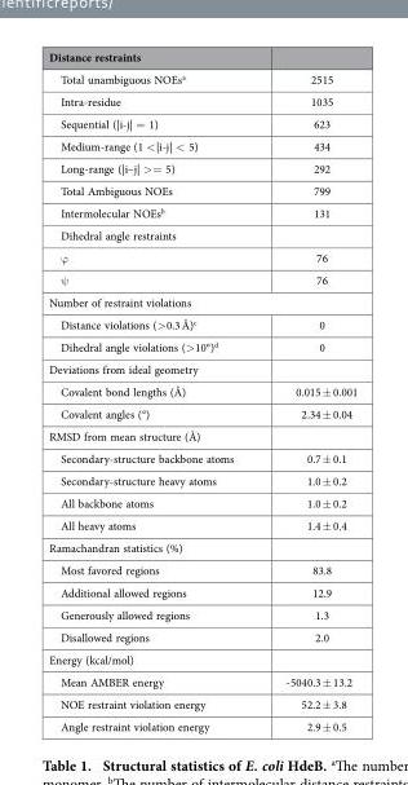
<table><thead><tr><td>Distance restraints</td><td></td></tr></thead><tbody><tr><td>Total unambiguous NOEs<sup>a</sup></td><td>2515</td></tr><tr><td>Intra-residue</td><td>1035</td></tr><tr><td>Sequential (|i-j| = 1)</td><td>623</td></tr><tr><td>Medium-range (1 &lt; |i-j| &lt; 5)</td><td>434</td></tr><tr><td>Long-range (|i–j| &gt; = 5)</td><td>292</td></tr><tr><td>Total Ambiguous NOEs</td><td>799</td></tr><tr><td>Intermolecular NOEs<sup>b</sup></td><td>131</td></tr><tr><td colspan="2">Dihedral angle restraints</td></tr><tr><td>ϕ</td><td>76</td></tr><tr><td>ψ</td><td>76</td></tr><tr><td colspan="2">Number of restraint violations</td></tr><tr><td>Distance violations (&gt; 0.3 Å)<sup>c</sup></td><td>0</td></tr><tr><td>Dihedral angle violations (&gt; 10°)<sup>d</sup></td><td>0</td></tr><tr><td colspan="2">Deviations from ideal geometry</td></tr><tr><td>Covalent bond lengths (Å)</td><td>0.015 ± 0.001</td></tr><tr><td>Covalent angles (°)</td><td>2.34 ± 0.04</td></tr><tr><td colspan="2">RMSD from mean structure (Å)</td></tr><tr><td>Secondary-structure backbone atoms</td><td>0.7 ± 0.1</td></tr><tr><td>Secondary-structure heavy atoms</td><td>1.0 ± 0.2</td></tr><tr><td>All backbone atoms</td><td>1.0 ± 0.2</td></tr><tr><td>All heavy atoms</td><td>1.4 ± 0.4</td></tr><tr><td colspan="2">Ramachandran statistics (%)</td></tr><tr><td>Most favored regions</td><td>83.8</td></tr><tr><td>Additional allowed regions</td><td>12.9</td></tr><tr><td>Generously allowed regions</td><td>1.3</td></tr><tr><td>Disallowed regions</td><td>2.0</td></tr><tr><td colspan="2">Energy (kcal/mol)</td></tr><tr><td>Mean AMBER energy</td><td>- 5040.3 ± 13.2</td></tr><tr><td>NOE restraint violation energy</td><td>52.2 ± 3.8</td></tr><tr><td>Angle restraint violation energy</td><td>2.9 ± 0.5</td></tr></tbody></table>